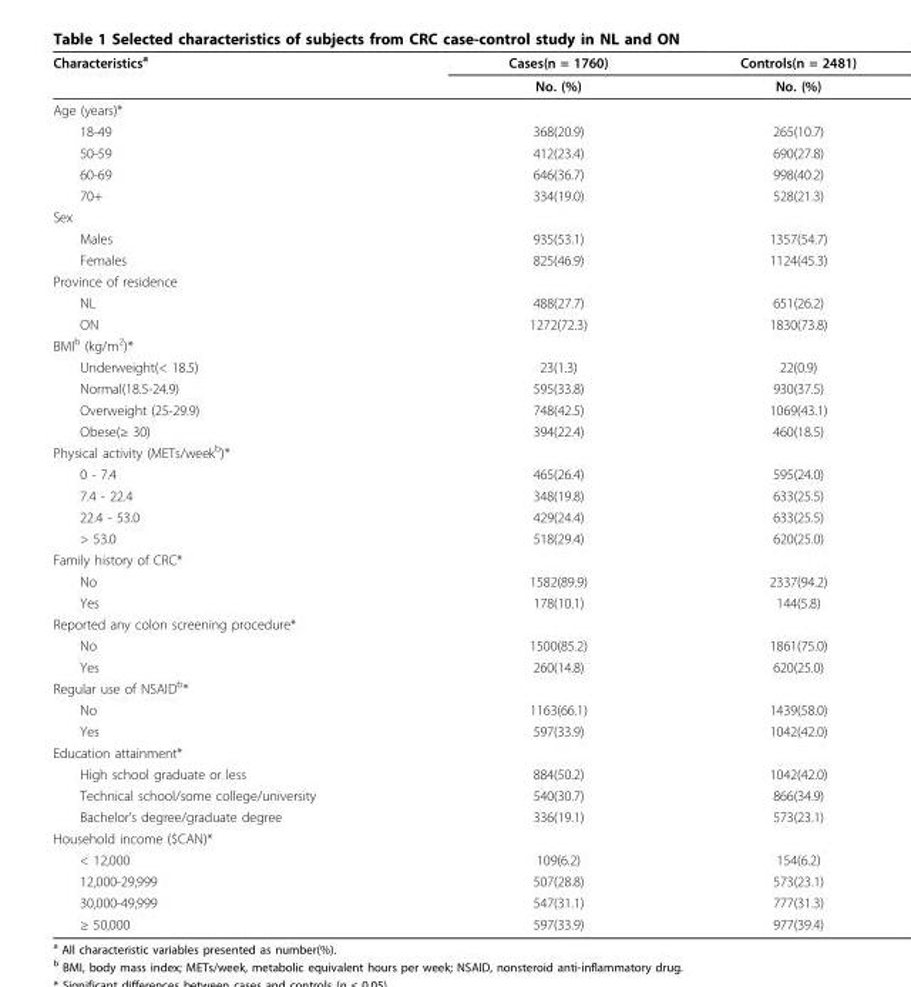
<table><thead><tr><td rowspan="2">Characteristics<sup>a</sup></td><td rowspan="2">Cases(n = 1760) No. (%)</td><td rowspan="2">Controls(n = 2481) No. (%)</td></tr><tr></tr></thead><tbody><tr><td colspan="3">Age (years)*</td></tr><tr><td>18-49</td><td>368(20.9)</td><td>265(10.7)</td></tr><tr><td>50-59</td><td>412(23.4)</td><td>690(27.8)</td></tr><tr><td>60-69</td><td>646(36.7)</td><td>998(40.2)</td></tr><tr><td>70+</td><td>334(19.0)</td><td>528(21.3)</td></tr><tr><td colspan="3">Sex</td></tr><tr><td>Males</td><td>935(53.1)</td><td>1357(54.7)</td></tr><tr><td>Females</td><td>825(46.9)</td><td>1124(45.3)</td></tr><tr><td colspan="3">Province of residence</td></tr><tr><td>NL</td><td>488(27.7)</td><td>651(26.2)</td></tr><tr><td>ON</td><td>1272(72.3)</td><td>1830(73.8)</td></tr><tr><td colspan="3">BMI<sup>b</sup> (kg/m<sup>2</sup>)*</td></tr><tr><td>Underweight(&lt; 18.5)</td><td>23(1.3)</td><td>22(0.9)</td></tr><tr><td>Normal(18.5-24.9)</td><td>595(33.8)</td><td>930(37.5)</td></tr><tr><td>Overweight (25-29.9)</td><td>748(42.5)</td><td>1069(43.1)</td></tr><tr><td>Obese(≥ 30)</td><td>394(22.4)</td><td>460(18.5)</td></tr><tr><td colspan="3">Physical activity (METs/week<sup>b</sup>)*</td></tr><tr><td>0 - 7.4</td><td>465(26.4)</td><td>595(24.0)</td></tr><tr><td>7.4 - 22.4</td><td>348(19.8)</td><td>633(25.5)</td></tr><tr><td>22.4 - 53.0</td><td>429(24.4)</td><td>633(25.5)</td></tr><tr><td>&gt; 53.0</td><td>518(29.4)</td><td>620(25.0)</td></tr><tr><td colspan="3">Family history of CRC*</td></tr><tr><td>No</td><td>1582(89.9)</td><td>2337(94.2)</td></tr><tr><td>Yes</td><td>178(10.1)</td><td>144(5.8)</td></tr><tr><td colspan="3">Reported any colon screening procedure*</td></tr><tr><td>No</td><td>1500(85.2)</td><td>1861(75.0)</td></tr><tr><td>Yes</td><td>260(14.8)</td><td>620(25.0)</td></tr><tr><td colspan="3">Regular use of NSAID<sup>b</sup>*</td></tr><tr><td>No</td><td>1163(66.1)</td><td>1439(58.0)</td></tr><tr><td>Yes</td><td>597(33.9)</td><td>1042(42.0)</td></tr><tr><td colspan="3">Education attainment*</td></tr><tr><td>High school graduate or less</td><td>884(50.2)</td><td>1042(42.0)</td></tr><tr><td>Technical school/some college/university</td><td>540(30.7)</td><td>866(34.9)</td></tr><tr><td>Bachelor’s degree/graduate degree</td><td>336(19.1)</td><td>573(23.1)</td></tr><tr><td colspan="3">Household income ($CAN)*</td></tr><tr><td>&lt; 12,000</td><td>109(6.2)</td><td>154(6.2)</td></tr><tr><td>12,000-29,999</td><td>507(28.8)</td><td>573(23.1)</td></tr><tr><td>30,000-49,999</td><td>547(31.1)</td><td>777(31.3)</td></tr><tr><td>≥ 50,000</td><td>597(33.9)</td><td>977(39.4)</td></tr></tbody></table>